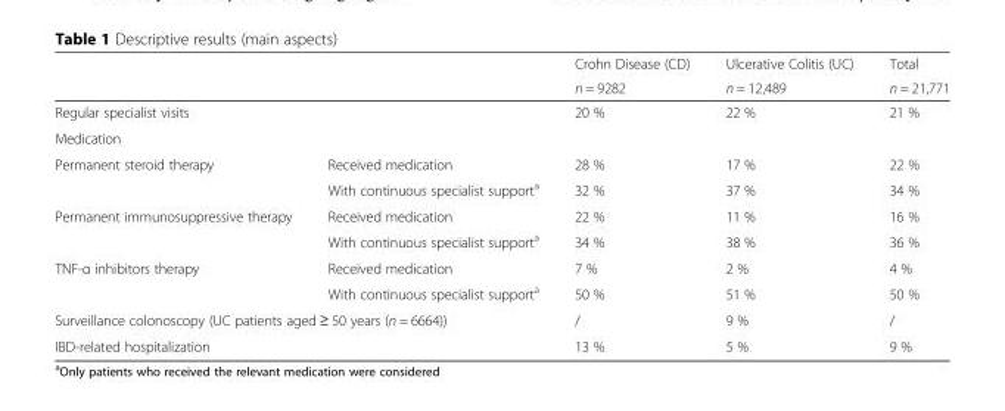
<table><thead><tr><td rowspan="2"></td><td rowspan="2"></td><td rowspan="2">Crohn Disease (CD) n = 9282</td><td rowspan="2">Ulcerative Colitis (UC) n = 12,489</td><td rowspan="2">Total n = 21,771</td></tr><tr></tr></thead><tbody><tr><td>Regular specialist visits</td><td></td><td>20 %</td><td>22 %</td><td>21 %</td></tr><tr><td colspan="5">Medication</td></tr><tr><td rowspan="2">Permanent steroid therapy</td><td>Received medication</td><td>28 %</td><td>17 %</td><td>22 %</td></tr><tr><td>With continuous specialist support<sup>a</sup></td><td>32 %</td><td>37 %</td><td>34 %</td></tr><tr><td rowspan="2">Permanent immunosuppressive therapy</td><td>Received medication</td><td>22 %</td><td>11 %</td><td>16 %</td></tr><tr><td>With continuous specialist support<sup>a</sup></td><td>34 %</td><td>38 %</td><td>36 %</td></tr><tr><td rowspan="2">TNF-α inhibitors therapy</td><td>Received medication</td><td>7 %</td><td>2 %</td><td>4 %</td></tr><tr><td>With continuous specialist support<sup>a</sup></td><td>50 %</td><td>51 %</td><td>50 %</td></tr><tr><td colspan="2">Surveillance colonoscopy (UC patients aged ≥ 50 years (n = 6664))</td><td>/</td><td>9 %</td><td>/</td></tr><tr><td colspan="2">IBD-related hospitalization</td><td>13 %</td><td>5 %</td><td>9 %</td></tr></tbody></table>